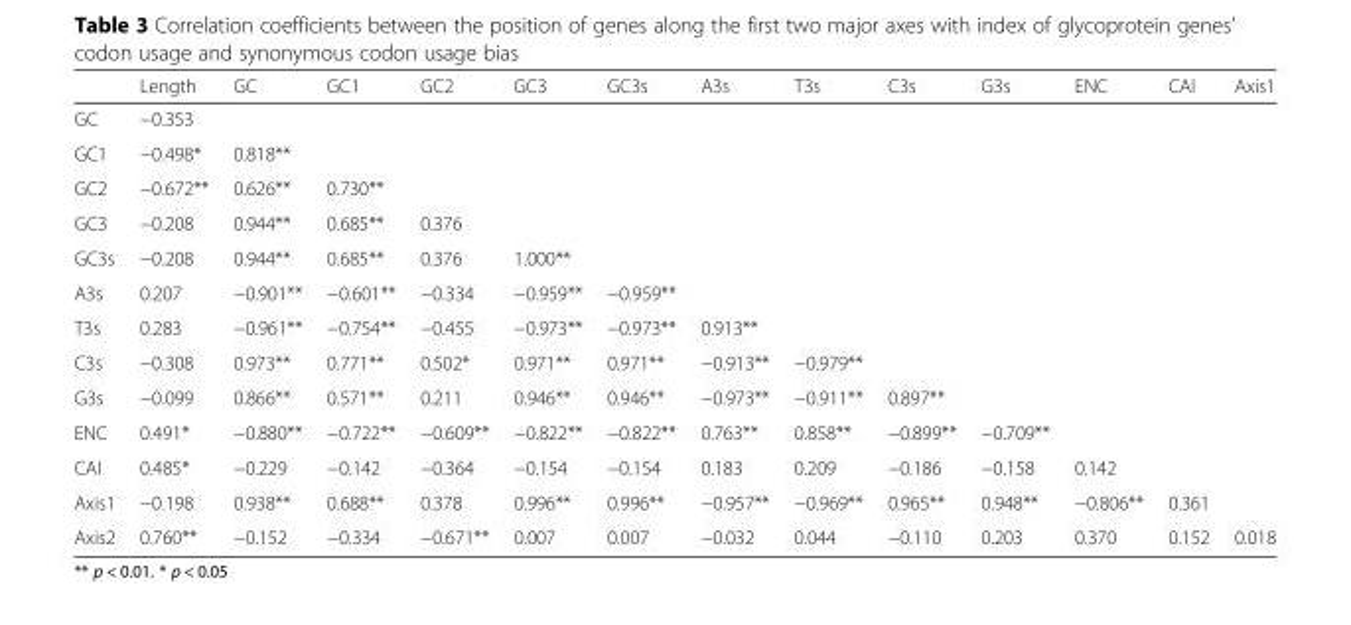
<table><thead><tr><td></td><td>Length</td><td>GC</td><td>GC1</td><td>GC2</td><td>GC3</td><td>GC3s</td><td>A3s</td><td>T3s</td><td>C3s</td><td>G3s</td><td>ENC</td><td>CAI</td><td>Axis1</td></tr></thead><tbody><tr><td>GC</td><td>−0.353</td><td></td><td></td><td></td><td></td><td></td><td></td><td></td><td></td><td></td><td></td><td></td><td></td></tr><tr><td>GC1</td><td>−0.498*</td><td>0.818**</td><td></td><td></td><td></td><td></td><td></td><td></td><td></td><td></td><td></td><td></td><td></td></tr><tr><td>GC2</td><td>−0.672**</td><td>0.626**</td><td>0.730**</td><td></td><td></td><td></td><td></td><td></td><td></td><td></td><td></td><td></td><td></td></tr><tr><td>GC3</td><td>−0.208</td><td>0.944**</td><td>0.685**</td><td>0.376</td><td></td><td></td><td></td><td></td><td></td><td></td><td></td><td></td><td></td></tr><tr><td>GC3s</td><td>−0.208</td><td>0.944**</td><td>0.685**</td><td>0.376</td><td>1.000**</td><td></td><td></td><td></td><td></td><td></td><td></td><td></td><td></td></tr><tr><td>A3s</td><td>0.207</td><td>−0.901**</td><td>−0.601**</td><td>−0.334</td><td>−0.959**</td><td>−0.959**</td><td></td><td></td><td></td><td></td><td></td><td></td><td></td></tr><tr><td>T3s</td><td>0.283</td><td>−0.961**</td><td>−0.754**</td><td>−0.455</td><td>−0.973**</td><td>−0.973**</td><td>0.913**</td><td></td><td></td><td></td><td></td><td></td><td></td></tr><tr><td>C3s</td><td>−0.308</td><td>0.973**</td><td>0.771**</td><td>0.502*</td><td>0.971**</td><td>0.971**</td><td>−0.913**</td><td>−0.979**</td><td></td><td></td><td></td><td></td><td></td></tr><tr><td>G3s</td><td>−0.099</td><td>0.866**</td><td>0.571**</td><td>0.211</td><td>0.946**</td><td>0.946**</td><td>−0.973**</td><td>−0.911**</td><td>0.897**</td><td></td><td></td><td></td><td></td></tr><tr><td>ENC</td><td>0.491*</td><td>−0.880**</td><td>−0.722**</td><td>−0.609**</td><td>−0.822**</td><td>−0.822**</td><td>0.763**</td><td>0.858**</td><td>−0.899**</td><td>−0.709**</td><td></td><td></td><td></td></tr><tr><td>CAI</td><td>0.485*</td><td>−0.229</td><td>−0.142</td><td>−0.364</td><td>−0.154</td><td>−0.154</td><td>0.183</td><td>0.209</td><td>−0.186</td><td>−0.158</td><td>0.142</td><td></td><td></td></tr><tr><td>Axis1</td><td>−0.198</td><td>0.938**</td><td>0.688**</td><td>0.378</td><td>0.996**</td><td>0.996**</td><td>−0.957**</td><td>−0.969**</td><td>0.965**</td><td>0.948**</td><td>−0.806**</td><td>0.361</td><td></td></tr><tr><td>Axis2</td><td>0.760**</td><td>−0.152</td><td>−0.334</td><td>−0.671**</td><td>0.007</td><td>0.007</td><td>−0.032</td><td>0.044</td><td>−0.110</td><td>0.203</td><td>0.370</td><td>0.152</td><td>0.018</td></tr></tbody></table>